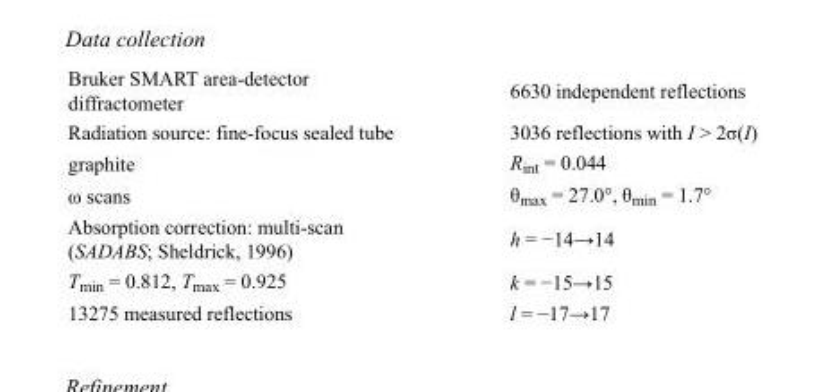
<table><tbody><tr><td>Bruker SMART area-detector diffractometer</td><td>6630 independent reflections</td></tr><tr><td>Radiation source: fine-focus sealed tube</td><td>3036 reflections with I &gt; 2σ(I)</td></tr><tr><td>graphite</td><td>R<sub>int</sub> = 0.044</td></tr><tr><td>ω scans</td><td>θ<sub>max</sub> = 27.0°, θ<sub>min</sub> = 1.7°</td></tr><tr><td>Absorption correction: multi-scan (SADABS; Sheldrick, 1996)</td><td>h = −14→14</td></tr><tr><td>T<sub>min</sub> = 0.812, T<sub>max</sub> = 0.925</td><td>k = −15→15</td></tr><tr><td>13275 measured reflections</td><td>l = −17→17</td></tr></tbody></table>